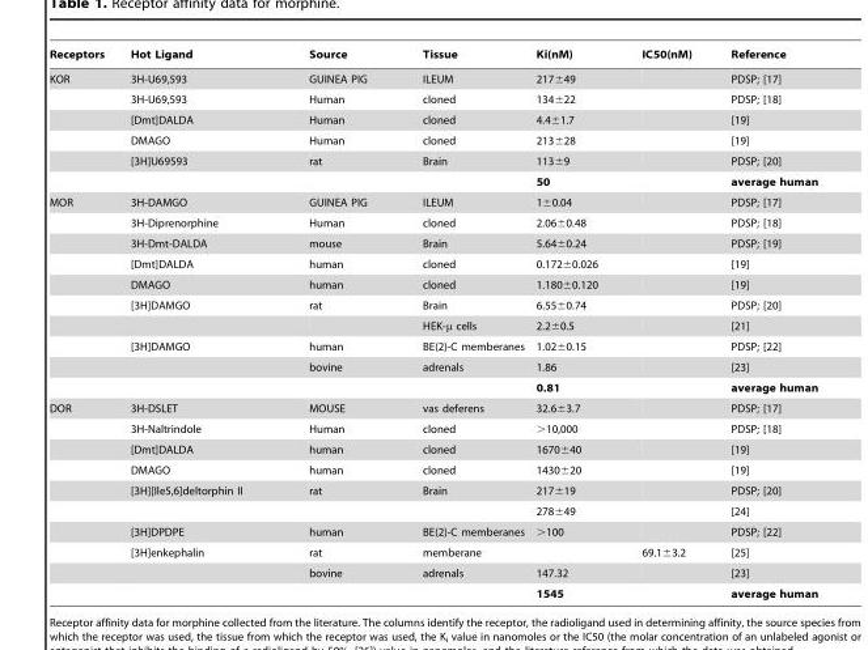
<table><thead><tr><td>Receptors</td><td>Hot Ligand</td><td>Source</td><td>Tissue</td><td>Ki(nM)</td><td>IC50(nM)</td><td>Reference</td></tr></thead><tbody><tr><td rowspan="6">KOR</td><td>3H-U69,593</td><td>GUINEA PIG</td><td>ILEUM</td><td>217±49</td><td></td><td>PDSP; [17]</td></tr><tr><td>3H-U69,593</td><td>Human</td><td>cloned</td><td>134±22</td><td></td><td>PDSP; [18]</td></tr><tr><td>[Dmt]DALDA</td><td>Human</td><td>cloned</td><td>4.4±1.7</td><td></td><td>[19]</td></tr><tr><td>DMAGO</td><td>Human</td><td>cloned</td><td>213±28</td><td></td><td>[19]</td></tr><tr><td>[3H]U69593</td><td>rat</td><td>Brain</td><td>113±9</td><td></td><td>PDSP; [20]</td></tr><tr><td></td><td></td><td></td><td>50</td><td></td><td>average human</td></tr><tr><td rowspan="10">MOR</td><td>3H-DAMGO</td><td>GUINEA PIG</td><td>ILEUM</td><td>1±0.04</td><td></td><td>PDSP; [17]</td></tr><tr><td>3H-Diprenorphine</td><td>Human</td><td>cloned</td><td>2.06±0.48</td><td></td><td>PDSP; [18]</td></tr><tr><td>3H-Dmt-DALDA</td><td>mouse</td><td>Brain</td><td>5.64±0.24</td><td></td><td>PDSP; [19]</td></tr><tr><td>[Dmt]DALDA</td><td>human</td><td>cloned</td><td>0.172±0.026</td><td></td><td>[19]</td></tr><tr><td>DMAGO</td><td>human</td><td>cloned</td><td>1.180±0.120</td><td></td><td>[19]</td></tr><tr><td>[3H]DAMGO</td><td>rat</td><td>Brain</td><td>6.55±0.74</td><td></td><td>PDSP; [20]</td></tr><tr><td></td><td></td><td>HEK-μ cells</td><td>2.2±0.5</td><td></td><td>[21]</td></tr><tr><td>[3H]DAMGO</td><td>human</td><td>BE(2)-C memberanes</td><td>1.02±0.15</td><td></td><td>PDSP; [22]</td></tr><tr><td></td><td>bovine</td><td>adrenals</td><td>1.86</td><td></td><td>[23]</td></tr><tr><td></td><td></td><td></td><td>0.81</td><td></td><td>average human</td></tr><tr><td rowspan="10">DOR</td><td>3H-DSLET</td><td>MOUSE</td><td>vas deferens</td><td>32.6±3.7</td><td></td><td>PDSP; [17]</td></tr><tr><td>3H-Naltrindole</td><td>Human</td><td>cloned</td><td>&gt;10,000</td><td></td><td>PDSP; [18]</td></tr><tr><td>[Dmt]DALDA</td><td>human</td><td>cloned</td><td>1670±40</td><td></td><td>[19]</td></tr><tr><td>DMAGO</td><td>human</td><td>cloned</td><td>1430±20</td><td></td><td>[19]</td></tr><tr><td>[3H][Ile5,6]deltorphin II</td><td>rat</td><td>Brain</td><td>217±19</td><td></td><td>PDSP; [20]</td></tr><tr><td></td><td></td><td></td><td>278±49</td><td></td><td>[24]</td></tr><tr><td>[3H]DPDPE</td><td>human</td><td>BE(2)-C memberanes</td><td>&gt;100</td><td></td><td>PDSP; [22]</td></tr><tr><td>[3H]enkephalin</td><td>rat</td><td>memberane</td><td></td><td>69.1±3.2</td><td>[25]</td></tr><tr><td></td><td>bovine</td><td>adrenals</td><td>147.32</td><td></td><td>[23]</td></tr><tr><td></td><td></td><td></td><td>1545</td><td></td><td>average human</td></tr></tbody></table>